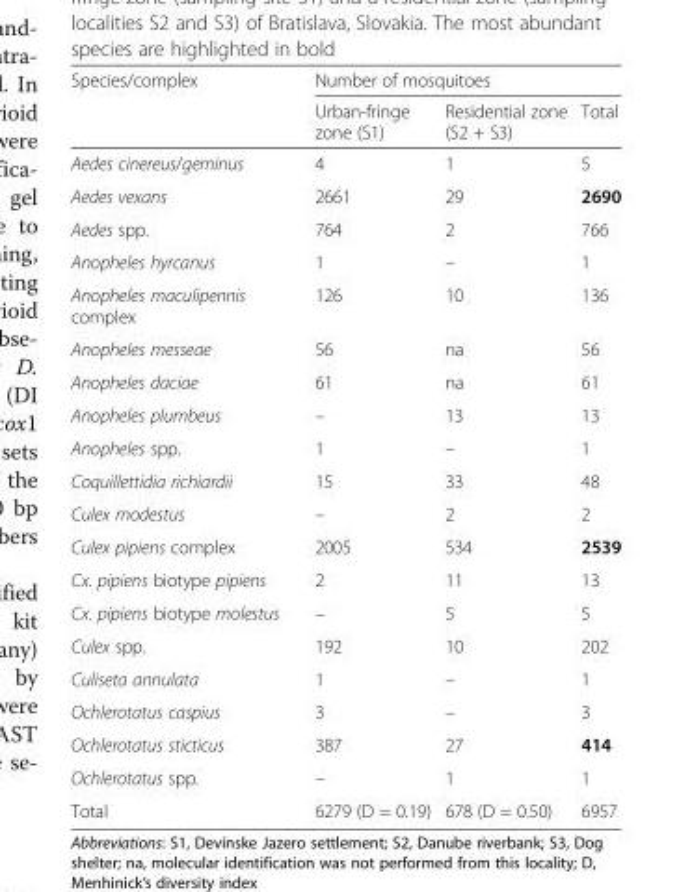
<table><thead><tr><td rowspan="2">Species/complex</td><td colspan="3">Number of mosquitoes</td></tr><tr><td>Urban-fringe zone (S1)</td><td>Residential zone (S2 + S3)</td><td>Total</td></tr></thead><tbody><tr><td>Aedes cinereus/geminus</td><td>4</td><td>1</td><td>5</td></tr><tr><td>Aedes vexans</td><td>2661</td><td>29</td><td>2690</td></tr><tr><td>Aedes spp.</td><td>764</td><td>2</td><td>766</td></tr><tr><td>Anopheles hyrcanus</td><td>1</td><td>–</td><td>1</td></tr><tr><td>Anopheles maculipennis complex</td><td>126</td><td>10</td><td>136</td></tr><tr><td>Anopheles messeae</td><td>56</td><td>na</td><td>56</td></tr><tr><td>Anopheles daciae</td><td>61</td><td>na</td><td>61</td></tr><tr><td>Anopheles plumbeus</td><td>–</td><td>13</td><td>13</td></tr><tr><td>Anopheles spp.</td><td>1</td><td>–</td><td>1</td></tr><tr><td>Coquillettidia richiardii</td><td>15</td><td>33</td><td>48</td></tr><tr><td>Culex modestus</td><td>–</td><td>2</td><td>2</td></tr><tr><td>Culex pipiens complex</td><td>2005</td><td>534</td><td>2539</td></tr><tr><td>Cx. pipiens biotype pipiens</td><td>2</td><td>11</td><td>13</td></tr><tr><td>Cx. pipiens biotype molestus</td><td>–</td><td>5</td><td>5</td></tr><tr><td>Culex spp.</td><td>192</td><td>10</td><td>202</td></tr><tr><td>Culiseta annulata</td><td>1</td><td>–</td><td>1</td></tr><tr><td>Ochlerotatus caspius</td><td>3</td><td>–</td><td>3</td></tr><tr><td>Ochlerotatus sticticus</td><td>387</td><td>27</td><td>414</td></tr><tr><td>Ochlerotatus spp.</td><td>–</td><td>1</td><td>1</td></tr><tr><td>Total</td><td>6279 (D = 0.19)</td><td>678 (D = 0.50)</td><td>6957</td></tr></tbody></table>